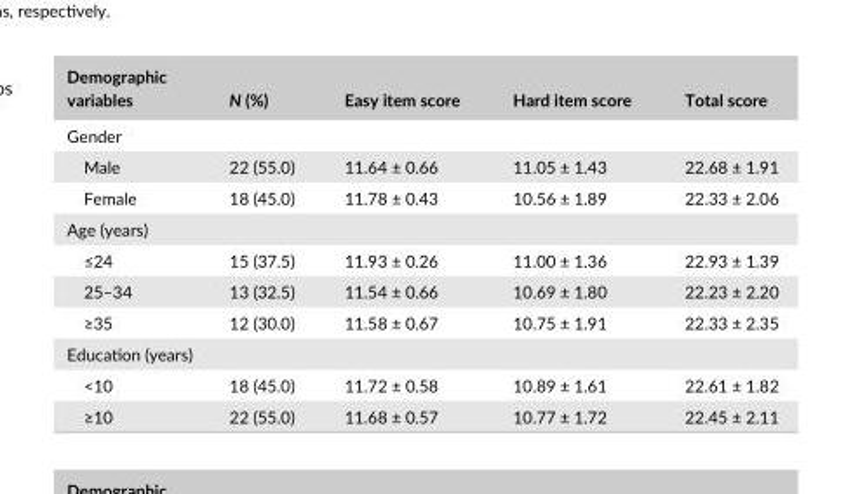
<table><thead><tr><td>Demographic variables</td><td>N (%)</td><td>Easy item score</td><td>Hard item score</td><td>Total score</td></tr></thead><tbody><tr><td colspan="5">Gender</td></tr><tr><td>Male</td><td>22 (55.0)</td><td>11.64 ± 0.66</td><td>11.05 ± 1.43</td><td>22.68 ± 1.91</td></tr><tr><td>Female</td><td>18 (45.0)</td><td>11.78 ± 0.43</td><td>10.56 ± 1.89</td><td>22.33 ± 2.06</td></tr><tr><td colspan="5">Age (years)</td></tr><tr><td>≤24</td><td>15 (37.5)</td><td>11.93 ± 0.26</td><td>11.00 ± 1.36</td><td>22.93 ± 1.39</td></tr><tr><td>25–34</td><td>13 (32.5)</td><td>11.54 ± 0.66</td><td>10.69 ± 1.80</td><td>22.23 ± 2.20</td></tr><tr><td>≥35</td><td>12 (30.0)</td><td>11.58 ± 0.67</td><td>10.75 ± 1.91</td><td>22.33 ± 2.35</td></tr><tr><td colspan="5">Education (years)</td></tr><tr><td>&lt;10</td><td>18 (45.0)</td><td>11.72 ± 0.58</td><td>10.89 ± 1.61</td><td>22.61 ± 1.82</td></tr><tr><td>≥10</td><td>22 (55.0)</td><td>11.68 ± 0.57</td><td>10.77 ± 1.72</td><td>22.45 ± 2.11</td></tr></tbody></table>